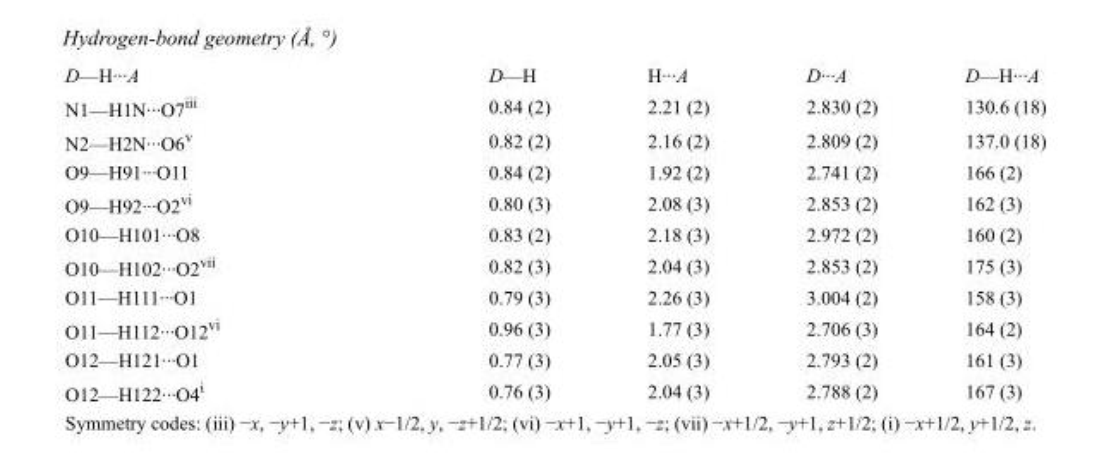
<table><tbody><tr><td>D—H···A</td><td>D—H</td><td>H···A</td><td>D···A</td><td>D—H···A</td></tr><tr><td>N1—H1N···O7<sup>iii</sup></td><td>0.84 (2)</td><td>2.21 (2)</td><td>2.830 (2)</td><td>130.6 (18)</td></tr><tr><td>N2—H2N···O6<sup>v</sup></td><td>0.82 (2)</td><td>2.16 (2)</td><td>2.809 (2)</td><td>137.0 (18)</td></tr><tr><td>O9—H91···O11</td><td>0.84 (2)</td><td>1.92 (2)</td><td>2.741 (2)</td><td>166 (2)</td></tr><tr><td>O9—H92···O2<sup>vi</sup></td><td>0.80 (3)</td><td>2.08 (3)</td><td>2.853 (2)</td><td>162 (3)</td></tr><tr><td>O10—H101···O8</td><td>0.83 (2)</td><td>2.18 (3)</td><td>2.972 (2)</td><td>160 (2)</td></tr><tr><td>O10—H102···O2<sup>vii</sup></td><td>0.82 (3)</td><td>2.04 (3)</td><td>2.853 (2)</td><td>175 (3)</td></tr><tr><td>O11—H111···O1</td><td>0.79 (3)</td><td>2.26 (3)</td><td>3.004 (2)</td><td>158 (3)</td></tr><tr><td>O11—H112···O12<sup>vi</sup></td><td>0.96 (3)</td><td>1.77 (3)</td><td>2.706 (3)</td><td>164 (2)</td></tr><tr><td>O12—H121···O1</td><td>0.77 (3)</td><td>2.05 (3)</td><td>2.793 (2)</td><td>161 (3)</td></tr><tr><td>O12—H122···O4<sup>i</sup></td><td>0.76 (3)</td><td>2.04 (3)</td><td>2.788 (2)</td><td>167 (3)</td></tr></tbody></table>